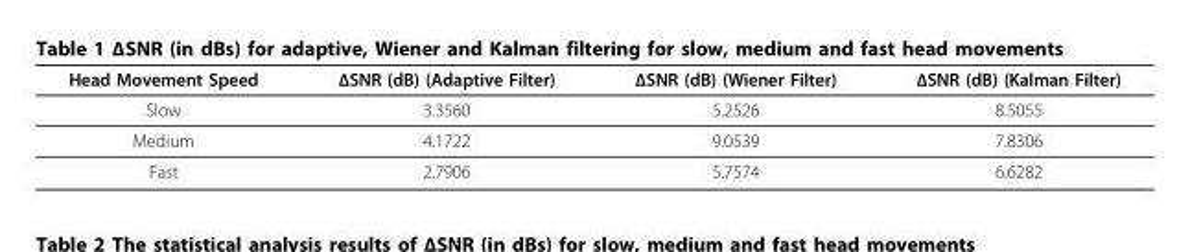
<table><thead><tr><td>Head Movement Speed</td><td>ΔSNR (dB) (Adaptive Filter)</td><td>ΔSNR (dB) (Wiener Filter)</td><td>ΔSNR (dB) (Kalman Filter)</td></tr></thead><tbody><tr><td>Slow</td><td>3.3560</td><td>5.2526</td><td>8.5055</td></tr><tr><td>Medium</td><td>4.1722</td><td>9.0539</td><td>7.8306</td></tr><tr><td>Fast</td><td>2.7906</td><td>5.7574</td><td>6.6282</td></tr></tbody></table>